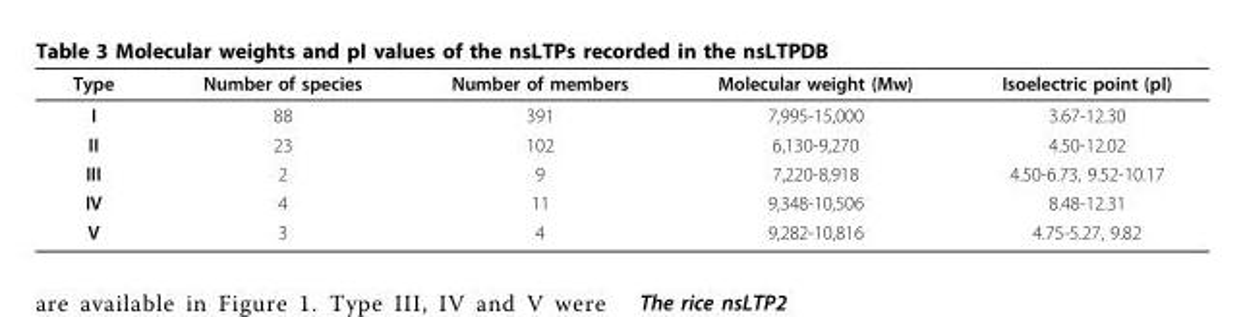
<table><thead><tr><td>Type</td><td>Number of species</td><td>Number of members</td><td>Molecular weight (Mw)</td><td>Isoelectric point (pI)</td></tr></thead><tbody><tr><td>I</td><td>88</td><td>391</td><td>7,995-15,000</td><td>3.67-12.30</td></tr><tr><td>II</td><td>23</td><td>102</td><td>6,130-9,270</td><td>4.50-12.02</td></tr><tr><td>III</td><td>2</td><td>9</td><td>7,220-8,918</td><td>4.50-6.73, 9.52-10.17</td></tr><tr><td>IV</td><td>4</td><td>11</td><td>9,348-10,506</td><td>8.48-12.31</td></tr><tr><td>V</td><td>3</td><td>4</td><td>9,282-10,816</td><td>4.75-5.27, 9.82</td></tr></tbody></table>